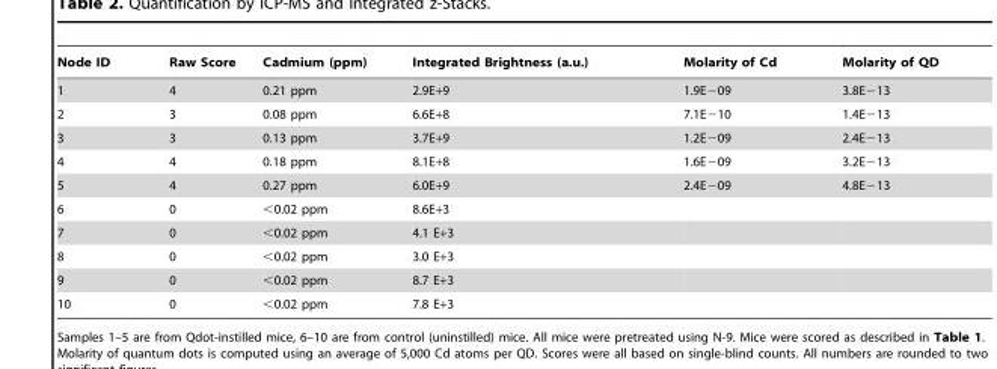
<table><thead><tr><td>Node ID</td><td>Raw Score</td><td>Cadmium (ppm)</td><td>Integrated Brightness (a.u.)</td><td>Molarity of Cd</td><td>Molarity of QD</td></tr></thead><tbody><tr><td>1</td><td>4</td><td>0.21 ppm</td><td>2.9E+9</td><td>1.9E−09</td><td>3.8E−13</td></tr><tr><td>2</td><td>3</td><td>0.08 ppm</td><td>6.6E+8</td><td>7.1E−10</td><td>1.4E−13</td></tr><tr><td>3</td><td>3</td><td>0.13 ppm</td><td>3.7E+9</td><td>1.2E−09</td><td>2.4E−13</td></tr><tr><td>4</td><td>4</td><td>0.18 ppm</td><td>8.1E+8</td><td>1.6E−09</td><td>3.2E−13</td></tr><tr><td>5</td><td>4</td><td>0.27 ppm</td><td>6.0E+9</td><td>2.4E−09</td><td>4.8E−13</td></tr><tr><td>6</td><td>0</td><td>&lt;0.02 ppm</td><td>8.6E+3</td><td></td><td></td></tr><tr><td>7</td><td>0</td><td>&lt;0.02 ppm</td><td>4.1 E+3</td><td></td><td></td></tr><tr><td>8</td><td>0</td><td>&lt;0.02 ppm</td><td>3.0 E+3</td><td></td><td></td></tr><tr><td>9</td><td>0</td><td>&lt;0.02 ppm</td><td>8.7 E+3</td><td></td><td></td></tr><tr><td>10</td><td>0</td><td>&lt;0.02 ppm</td><td>7.8 E+3</td><td></td><td></td></tr></tbody></table>